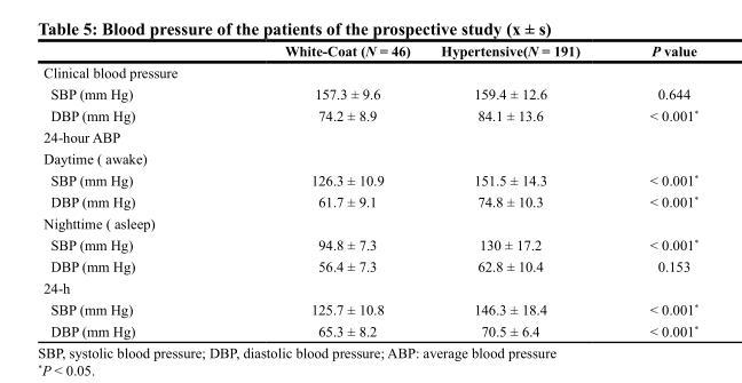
<table><thead><tr><td></td><td>White-Coat (N = 46)</td><td>Hypertensive(N = 191)</td><td>P value</td></tr></thead><tbody><tr><td colspan="4">Clinical blood pressure</td></tr><tr><td>SBP (mm Hg)</td><td>157.3 ± 9.6</td><td>159.4 ± 12.6</td><td>0.644</td></tr><tr><td>DBP (mm Hg)</td><td>74.2 ± 8.9</td><td>84.1 ± 13.6</td><td>&lt; 0.001*</td></tr><tr><td colspan="4">24-hour ABP</td></tr><tr><td colspan="4">Daytime ( awake)</td></tr><tr><td>SBP (mm Hg)</td><td>126.3 ± 10.9</td><td>151.5 ± 14.3</td><td>&lt; 0.001*</td></tr><tr><td>DBP (mm Hg)</td><td>61.7 ± 9.1</td><td>74.8 ± 10.3</td><td>&lt; 0.001*</td></tr><tr><td colspan="4">Nighttime ( asleep)</td></tr><tr><td>SBP (mm Hg)</td><td>94.8 ± 7.3</td><td>130 ± 17.2</td><td>&lt; 0.001*</td></tr><tr><td>DBP (mm Hg)</td><td>56.4 ± 7.3</td><td>62.8 ± 10.4</td><td>0.153</td></tr><tr><td colspan="4">24-h</td></tr><tr><td>SBP (mm Hg)</td><td>125.7 ± 10.8</td><td>146.3 ± 18.4</td><td>&lt; 0.001*</td></tr><tr><td>DBP (mm Hg)</td><td>65.3 ± 8.2</td><td>70.5 ± 6.4</td><td>&lt; 0.001*</td></tr></tbody></table>